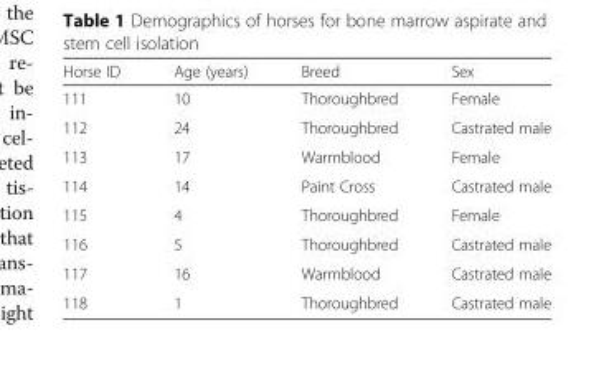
<table><thead><tr><td>Horse ID</td><td>Age (years)</td><td>Breed</td><td>Sex</td></tr></thead><tbody><tr><td>111</td><td>10</td><td>Thoroughbred</td><td>Female</td></tr><tr><td>112</td><td>24</td><td>Thoroughbred</td><td>Castrated male</td></tr><tr><td>113</td><td>17</td><td>Warmblood</td><td>Female</td></tr><tr><td>114</td><td>14</td><td>Paint Cross</td><td>Castrated male</td></tr><tr><td>115</td><td>4</td><td>Thoroughbred</td><td>Female</td></tr><tr><td>116</td><td>5</td><td>Thoroughbred</td><td>Castrated male</td></tr><tr><td>117</td><td>16</td><td>Warmblood</td><td>Castrated male</td></tr><tr><td>118</td><td>1</td><td>Thoroughbred</td><td>Castrated male</td></tr></tbody></table>